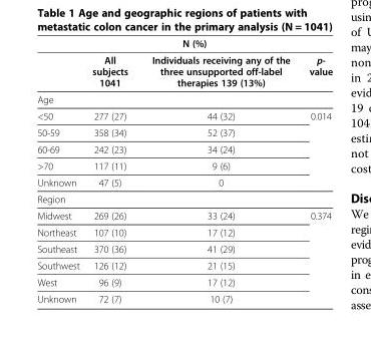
<table><thead><tr><td rowspan="2"></td><td colspan="2">N (%)</td><td rowspan="2">p- value</td></tr><tr><td>All subjects 1041</td><td>Individuals receiving any of the three unsupported off-label therapies 139 (13%)</td></tr></thead><tbody><tr><td colspan="4">Age</td></tr><tr><td>&lt;50</td><td>277 (27)</td><td>44 (32)</td><td rowspan="5">0.014</td></tr><tr><td>50-59</td><td>358 (34)</td><td>52 (37)</td></tr><tr><td>60-69</td><td>242 (23)</td><td>34 (24)</td></tr><tr><td>&gt;70</td><td>117 (11)</td><td>9 (6)</td></tr><tr><td>Unknown</td><td>47 (5)</td><td>0</td></tr><tr><td colspan="4">Region</td></tr><tr><td>Midwest</td><td>269 (26)</td><td>33 (24)</td><td rowspan="6">0.374</td></tr><tr><td>Northeast</td><td>107 (10)</td><td>17 (12)</td></tr><tr><td>Southeast</td><td>370 (36)</td><td>41 (29)</td></tr><tr><td>Southwest</td><td>126 (12)</td><td>21 (15)</td></tr><tr><td>West</td><td>96 (9)</td><td>17 (12)</td></tr><tr><td>Unknown</td><td>72 (7)</td><td>10 (7)</td></tr></tbody></table>